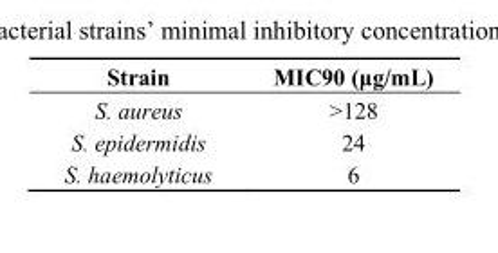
<table><thead><tr><td>Strain</td><td>MIC90 (μg/mL)</td></tr></thead><tbody><tr><td>S. aureus</td><td>&gt;128</td></tr><tr><td>S. epidermidis</td><td>24</td></tr><tr><td>S. haemolyticus</td><td>6</td></tr></tbody></table>